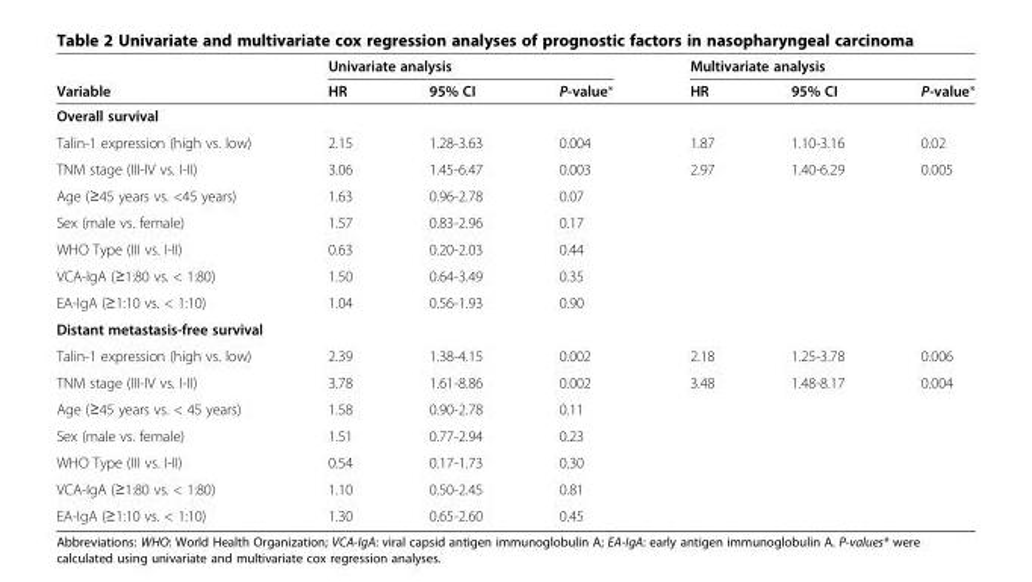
<table><thead><tr><td rowspan="2">Variable</td><td colspan="3">Univariate analysis</td><td colspan="3">Multivariate analysis</td></tr><tr><td>HR</td><td>95% CI</td><td>P-value*</td><td>HR</td><td>95% CI</td><td>P-value*</td></tr></thead><tbody><tr><td colspan="7">Overall survival</td></tr><tr><td>Talin-1 expression (high vs. low)</td><td>2.15</td><td>1.28-3.63</td><td>0.004</td><td>1.87</td><td>1.10-3.16</td><td>0.02</td></tr><tr><td>TNM stage (III-IV vs. I-II)</td><td>3.06</td><td>1.45-6.47</td><td>0.003</td><td>2.97</td><td>1.40-6.29</td><td>0.005</td></tr><tr><td>Age (≥45 years vs. &lt;45 years)</td><td>1.63</td><td>0.96-2.78</td><td>0.07</td><td></td><td></td><td></td></tr><tr><td>Sex (male vs. female)</td><td>1.57</td><td>0.83-2.96</td><td>0.17</td><td></td><td></td><td></td></tr><tr><td>WHO Type (III vs. I-II)</td><td>0.63</td><td>0.20-2.03</td><td>0.44</td><td></td><td></td><td></td></tr><tr><td>VCA-IgA (≥1:80 vs. &lt; 1:80)</td><td>1.50</td><td>0.64-3.49</td><td>0.35</td><td></td><td></td><td></td></tr><tr><td>EA-IgA (≥1:10 vs. &lt; 1:10)</td><td>1.04</td><td>0.56-1.93</td><td>0.90</td><td></td><td></td><td></td></tr><tr><td colspan="7">Distant metastasis-free survival</td></tr><tr><td>Talin-1 expression (high vs. low)</td><td>2.39</td><td>1.38-4.15</td><td>0.002</td><td>2.18</td><td>1.25-3.78</td><td>0.006</td></tr><tr><td>TNM stage (III-IV vs. I-II)</td><td>3.78</td><td>1.61-8.86</td><td>0.002</td><td>3.48</td><td>1.48-8.17</td><td>0.004</td></tr><tr><td>Age (≥45 years vs. &lt; 45 years)</td><td>1.58</td><td>0.90-2.78</td><td>0.11</td><td></td><td></td><td></td></tr><tr><td>Sex (male vs. female)</td><td>1.51</td><td>0.77-2.94</td><td>0.23</td><td></td><td></td><td></td></tr><tr><td>WHO Type (III vs. I-II)</td><td>0.54</td><td>0.17-1.73</td><td>0.30</td><td></td><td></td><td></td></tr><tr><td>VCA-IgA (≥1:80 vs. &lt; 1:80)</td><td>1.10</td><td>0.50-2.45</td><td>0.81</td><td></td><td></td><td></td></tr><tr><td>EA-IgA (≥1:10 vs. &lt; 1:10)</td><td>1.30</td><td>0.65-2.60</td><td>0.45</td><td></td><td></td><td></td></tr></tbody></table>